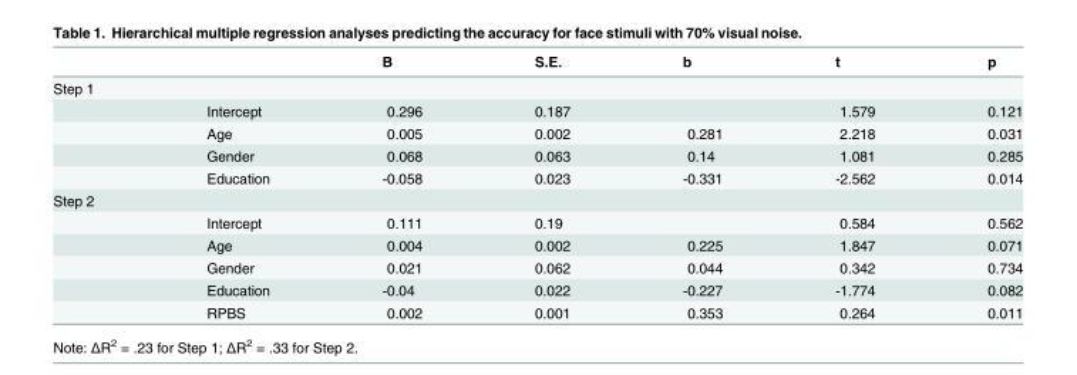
<table><thead><tr><td></td><td></td><td>B</td><td>S.E.</td><td>b</td><td>t</td><td>p</td></tr></thead><tbody><tr><td colspan="7">Step 1</td></tr><tr><td></td><td>Intercept</td><td>0.296</td><td>0.187</td><td></td><td>1.579</td><td>0.121</td></tr><tr><td></td><td>Age</td><td>0.005</td><td>0.002</td><td>0.281</td><td>2.218</td><td>0.031</td></tr><tr><td></td><td>Gender</td><td>0.068</td><td>0.063</td><td>0.14</td><td>1.081</td><td>0.285</td></tr><tr><td></td><td>Education</td><td>-0.058</td><td>0.023</td><td>-0.331</td><td>-2.562</td><td>0.014</td></tr><tr><td colspan="7">Step 2</td></tr><tr><td></td><td>Intercept</td><td>0.111</td><td>0.19</td><td></td><td>0.584</td><td>0.562</td></tr><tr><td></td><td>Age</td><td>0.004</td><td>0.002</td><td>0.225</td><td>1.847</td><td>0.071</td></tr><tr><td></td><td>Gender</td><td>0.021</td><td>0.062</td><td>0.044</td><td>0.342</td><td>0.734</td></tr><tr><td></td><td>Education</td><td>-0.04</td><td>0.022</td><td>-0.227</td><td>-1.774</td><td>0.082</td></tr><tr><td></td><td>RPBS</td><td>0.002</td><td>0.001</td><td>0.353</td><td>0.264</td><td>0.011</td></tr></tbody></table>